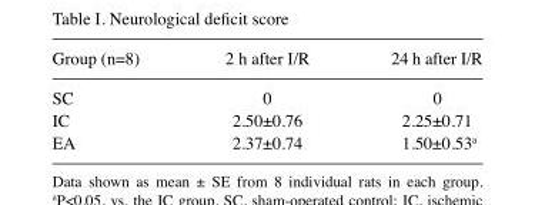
<table><thead><tr><td>Group (n=8)</td><td>2 h after I/R</td><td>24 h after I/R</td></tr></thead><tbody><tr><td>SC</td><td>0</td><td>0</td></tr><tr><td>IC</td><td>2.50±0.76</td><td>2.25±0.71</td></tr><tr><td>EA</td><td>2.37±0.74</td><td>1.50±0.53<sup>a</sup></td></tr></tbody></table>